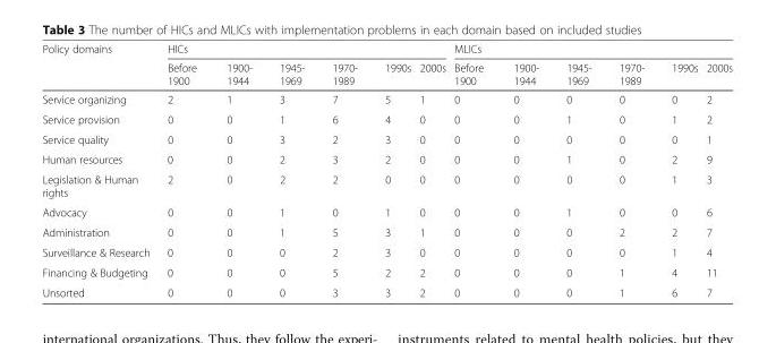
<table><thead><tr><td rowspan="2">Policy domains</td><td colspan="6">HICs</td><td colspan="6">MLICs</td></tr><tr><td>Before 1900</td><td>1900- 1944</td><td>1945- 1969</td><td>1970- 1989</td><td>1990s</td><td>2000s</td><td>Before 1900</td><td>1900- 1944</td><td>1945- 1969</td><td>1970- 1989</td><td>1990s</td><td>2000s</td></tr></thead><tbody><tr><td>Service organizing</td><td>2</td><td>1</td><td>3</td><td>7</td><td>5</td><td>1</td><td>0</td><td>0</td><td>0</td><td>0</td><td>0</td><td>2</td></tr><tr><td>Service provision</td><td>0</td><td>0</td><td>1</td><td>6</td><td>4</td><td>0</td><td>0</td><td>0</td><td>1</td><td>0</td><td>1</td><td>2</td></tr><tr><td>Service quality</td><td>0</td><td>0</td><td>3</td><td>2</td><td>3</td><td>0</td><td>0</td><td>0</td><td>0</td><td>0</td><td>0</td><td>1</td></tr><tr><td>Human resources</td><td>0</td><td>0</td><td>2</td><td>3</td><td>2</td><td>0</td><td>0</td><td>0</td><td>1</td><td>0</td><td>2</td><td>9</td></tr><tr><td>Legislation &amp; Human rights</td><td>2</td><td>0</td><td>2</td><td>2</td><td>0</td><td>0</td><td>0</td><td>0</td><td>0</td><td>0</td><td>1</td><td>3</td></tr><tr><td>Advocacy</td><td>0</td><td>0</td><td>1</td><td>0</td><td>1</td><td>0</td><td>0</td><td>0</td><td>1</td><td>0</td><td>0</td><td>6</td></tr><tr><td>Administration</td><td>0</td><td>0</td><td>1</td><td>5</td><td>3</td><td>1</td><td>0</td><td>0</td><td>0</td><td>2</td><td>2</td><td>7</td></tr><tr><td>Surveillance &amp; Research</td><td>0</td><td>0</td><td>0</td><td>2</td><td>3</td><td>0</td><td>0</td><td>0</td><td>0</td><td>0</td><td>1</td><td>4</td></tr><tr><td>Financing &amp; Budgeting</td><td>0</td><td>0</td><td>0</td><td>5</td><td>2</td><td>2</td><td>0</td><td>0</td><td>0</td><td>1</td><td>4</td><td>11</td></tr><tr><td>Unsorted</td><td>0</td><td>0</td><td>0</td><td>3</td><td>3</td><td>2</td><td>0</td><td>0</td><td>0</td><td>1</td><td>6</td><td>7</td></tr></tbody></table>